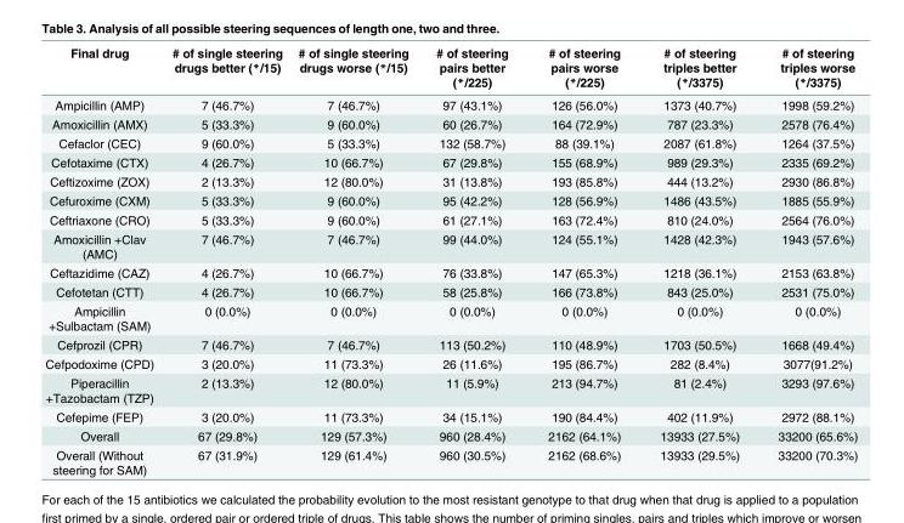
<table><thead><tr><td>Final drug</td><td># of single steering drugs better (*/15)</td><td># of single steering drugs worse (*/15)</td><td># of steering pairs better (*/225)</td><td># of steering pairs worse (*/225)</td><td># of steering triples better (*/3375)</td><td># of steering triples worse (*/3375)</td></tr></thead><tbody><tr><td>Ampicillin (AMP)</td><td>7 (46.7%)</td><td>7 (46.7%)</td><td>97 (43.1%)</td><td>126 (56.0%)</td><td>1373 (40.7%)</td><td>1998 (59.2%)</td></tr><tr><td>Amoxicillin (AMX)</td><td>5 (33.3%)</td><td>9 (60.0%)</td><td>60 (26.7%)</td><td>164 (72.9%)</td><td>787 (23.3%)</td><td>2578 (76.4%)</td></tr><tr><td>Cefaclor (CEC)</td><td>9 (60.0%)</td><td>5 (33.3%)</td><td>132 (58.7%)</td><td>88 (39.1%)</td><td>2087 (61.8%)</td><td>1264 (37.5%)</td></tr><tr><td>Cefotaxime (CTX)</td><td>4 (26.7%)</td><td>10 (66.7%)</td><td>67 (29.8%)</td><td>155 (68.9%)</td><td>989 (29.3%)</td><td>2335 (69.2%)</td></tr><tr><td>Ceftizoxime (ZOX)</td><td>2 (13.3%)</td><td>12 (80.0%)</td><td>31 (13.8%)</td><td>193 (85.8%)</td><td>444 (13.2%)</td><td>2930 (86.8%)</td></tr><tr><td>Cefuroxime (CXM)</td><td>5 (33.3%)</td><td>9 (60.0%)</td><td>95 (42.2%)</td><td>128 (56.9%)</td><td>1486 (43.5%)</td><td>1885 (55.9%)</td></tr><tr><td>Ceftriaxone (CRO)</td><td>5 (33.3%)</td><td>9 (60.0%)</td><td>61 (27.1%)</td><td>163 (72.4%)</td><td>810 (24.0%)</td><td>2564 (76.0%)</td></tr><tr><td>Amoxicillin +Clav (AMC)</td><td>7 (46.7%)</td><td>7 (46.7%)</td><td>99 (44.0%)</td><td>124 (55.1%)</td><td>1428 (42.3%)</td><td>1943 (57.6%)</td></tr><tr><td>Ceftazidime (CAZ)</td><td>4 (26.7%)</td><td>10 (66.7%)</td><td>76 (33.8%)</td><td>147 (65.3%)</td><td>1218 (36.1%)</td><td>2153 (63.8%)</td></tr><tr><td>Cefotetan (CTT)</td><td>4 (26.7%)</td><td>10 (66.7%)</td><td>58 (25.8%)</td><td>166 (73.8%)</td><td>843 (25.0%)</td><td>2531 (75.0%)</td></tr><tr><td>Ampicillin +Sulbactam (SAM)</td><td>0 (0.0%)</td><td>0 (0.0%)</td><td>0 (0.0%)</td><td>0 (0.0%)</td><td>0 (0.0%)</td><td>0 (0.0%)</td></tr><tr><td>Cefprozil (CPR)</td><td>7 (46.7%)</td><td>7 (46.7%)</td><td>113 (50.2%)</td><td>110 (48.9%)</td><td>1703 (50.5%)</td><td>1668 (49.4%)</td></tr><tr><td>Cefpodoxime (CPD)</td><td>3 (20.0%)</td><td>11 (73.3%)</td><td>26 (11.6%)</td><td>195 (86.7%)</td><td>282 (8.4%)</td><td>3077(91.2%)</td></tr><tr><td>Piperacillin +Tazobactam (TZP)</td><td>2 (13.3%)</td><td>12 (80.0%)</td><td>11 (5.9%)</td><td>213 (94.7%)</td><td>81 (2.4%)</td><td>3293 (97.6%)</td></tr><tr><td>Cefepime (FEP)</td><td>3 (20.0%)</td><td>11 (73.3%)</td><td>34 (15.1%)</td><td>190 (84.4%)</td><td>402 (11.9%)</td><td>2972 (88.1%)</td></tr><tr><td>Overall</td><td>67 (29.8%)</td><td>129 (57.3%)</td><td>960 (28.4%)</td><td>2162 (64.1%)</td><td>13933 (27.5%)</td><td>33200 (65.6%)</td></tr><tr><td>Overall (Without steering for SAM)</td><td>67 (31.9%)</td><td>129 (61.4%)</td><td>960 (30.5%)</td><td>2162 (68.6%)</td><td>13933 (29.5%)</td><td>33200 (70.3%)</td></tr></tbody></table>